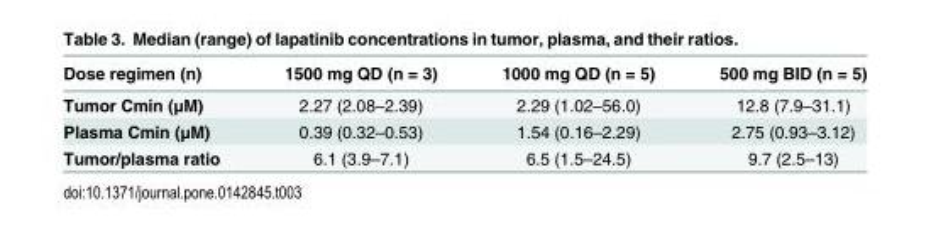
<table><thead><tr><td>Dose regimen (n)</td><td>1500 mg QD (n = 3)</td><td>1000 mg QD (n = 5)</td><td>500 mg BID (n = 5)</td></tr></thead><tbody><tr><td>Tumor Cmin (μM)</td><td>2.27 (2.08–2.39)</td><td>2.29 (1.02–56.0)</td><td>12.8 (7.9–31.1)</td></tr><tr><td>Plasma Cmin (μM)</td><td>0.39 (0.32–0.53)</td><td>1.54 (0.16–2.29)</td><td>2.75 (0.93–3.12)</td></tr><tr><td>Tumor/plasma ratio</td><td>6.1 (3.9–7.1)</td><td>6.5 (1.5–24.5)</td><td>9.7 (2.5–13)</td></tr></tbody></table>